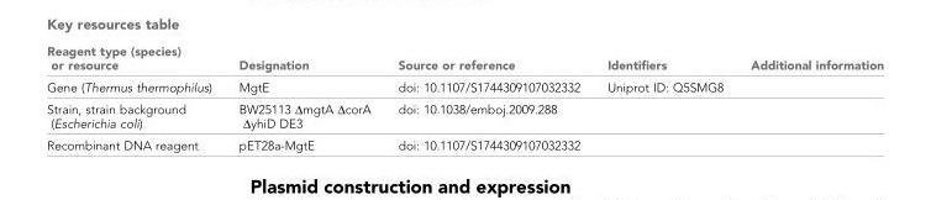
<table><thead><tr><td>Reagent type (species) or resource</td><td>Designation</td><td>Source or reference</td><td>Identifiers</td><td>Additional information</td></tr></thead><tbody><tr><td>Gene (Thermus thermophilus)</td><td>MgtE</td><td>doi: 10.1107/S1744309107032332</td><td>Uniprot ID: Q5SMG8</td><td></td></tr><tr><td>Strain, strain background (Escherichia coli)</td><td>BW25113 ΔmgtA ΔcorA ΔyhiD DE3</td><td>doi: 10.1038/emboj.2009.288</td><td></td><td></td></tr><tr><td>Recombinant DNA reagent</td><td>pET28a-MgtE</td><td>doi: 10.1107/S1744309107032332</td><td></td><td></td></tr></tbody></table>